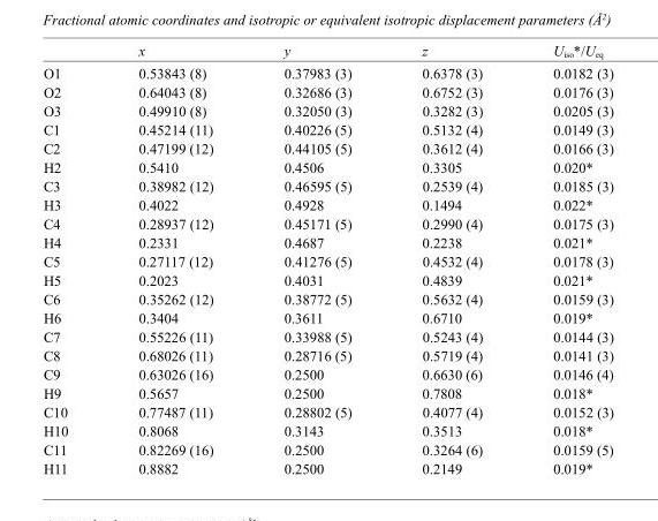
<table><thead><tr><td></td><td>x</td><td>y</td><td>z</td><td>U<sub>iso</sub>*/U<sub>eq</sub></td></tr></thead><tbody><tr><td>O1</td><td>0.53843 (8)</td><td>0.37983 (3)</td><td>0.6378 (3)</td><td>0.0182 (3)</td></tr><tr><td>O2</td><td>0.64043 (8)</td><td>0.32686 (3)</td><td>0.6752 (3)</td><td>0.0176 (3)</td></tr><tr><td>O3</td><td>0.49910 (8)</td><td>0.32050 (3)</td><td>0.3282 (3)</td><td>0.0205 (3)</td></tr><tr><td>C1</td><td>0.45214 (11)</td><td>0.40226 (5)</td><td>0.5132 (4)</td><td>0.0149 (3)</td></tr><tr><td>C2</td><td>0.47199 (12)</td><td>0.44105 (5)</td><td>0.3612 (4)</td><td>0.0166 (3)</td></tr><tr><td>H2</td><td>0.5410</td><td>0.4506</td><td>0.3305</td><td>0.020*</td></tr><tr><td>C3</td><td>0.38982 (12)</td><td>0.46595 (5)</td><td>0.2539 (4)</td><td>0.0185 (3)</td></tr><tr><td>H3</td><td>0.4022</td><td>0.4928</td><td>0.1494</td><td>0.022*</td></tr><tr><td>C4</td><td>0.28937 (12)</td><td>0.45171 (5)</td><td>0.2990 (4)</td><td>0.0175 (3)</td></tr><tr><td>H4</td><td>0.2331</td><td>0.4687</td><td>0.2238</td><td>0.021*</td></tr><tr><td>C5</td><td>0.27117 (12)</td><td>0.41276 (5)</td><td>0.4532 (4)</td><td>0.0178 (3)</td></tr><tr><td>H5</td><td>0.2023</td><td>0.4031</td><td>0.4839</td><td>0.021*</td></tr><tr><td>C6</td><td>0.35262 (12)</td><td>0.38772 (5)</td><td>0.5632 (4)</td><td>0.0159 (3)</td></tr><tr><td>H6</td><td>0.3404</td><td>0.3611</td><td>0.6710</td><td>0.019*</td></tr><tr><td>C7</td><td>0.55226 (11)</td><td>0.33988 (5)</td><td>0.5243 (4)</td><td>0.0144 (3)</td></tr><tr><td>C8</td><td>0.68026 (11)</td><td>0.28716 (5)</td><td>0.5719 (4)</td><td>0.0141 (3)</td></tr><tr><td>C9</td><td>0.63026 (16)</td><td>0.2500</td><td>0.6630 (6)</td><td>0.0146 (4)</td></tr><tr><td>H9</td><td>0.5657</td><td>0.2500</td><td>0.7808</td><td>0.018*</td></tr><tr><td>C10</td><td>0.77487 (11)</td><td>0.28802 (5)</td><td>0.4077 (4)</td><td>0.0152 (3)</td></tr><tr><td>H10</td><td>0.8068</td><td>0.3143</td><td>0.3513</td><td>0.018*</td></tr><tr><td>C11</td><td>0.82269 (16)</td><td>0.2500</td><td>0.3264 (6)</td><td>0.0159 (5)</td></tr><tr><td>H11</td><td>0.8882</td><td>0.2500</td><td>0.2149</td><td>0.019*</td></tr></tbody></table>